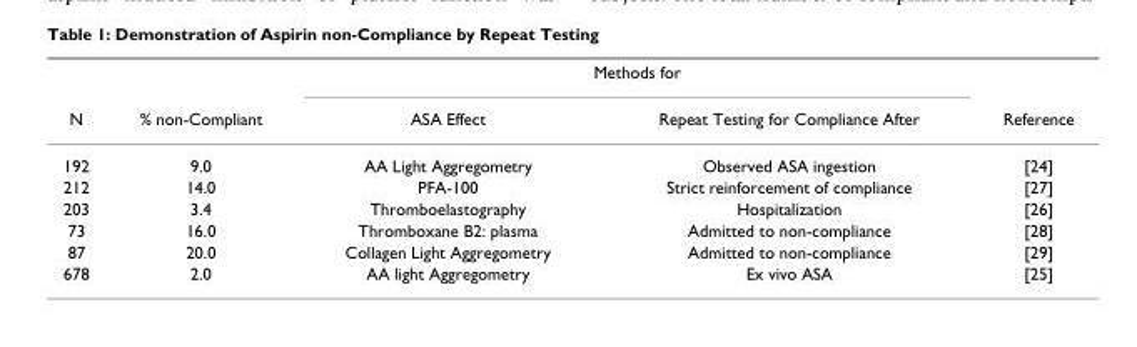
<table><thead><tr><td rowspan="2">N</td><td rowspan="2">% non-Compliant</td><td colspan="2">Methods for</td><td rowspan="2">Reference</td></tr><tr><td>ASA Effect</td><td>Repeat Testing for Compliance After</td></tr></thead><tbody><tr><td>192</td><td>9.0</td><td>AA Light Aggregometry</td><td>Observed ASA ingestion</td><td>[24]</td></tr><tr><td>212</td><td>14.0</td><td>PFA-100</td><td>Strict reinforcement of compliance</td><td>[27]</td></tr><tr><td>203</td><td>3.4</td><td>Thromboelastography</td><td>Hospitalization</td><td>[26]</td></tr><tr><td>73</td><td>16.0</td><td>Thromboxane B2: plasma</td><td>Admitted to non-compliance</td><td>[28]</td></tr><tr><td>87</td><td>20.0</td><td>Collagen Light Aggregometry</td><td>Admitted to non-compliance</td><td>[29]</td></tr><tr><td>678</td><td>2.0</td><td>AA light Aggregometry</td><td>Ex vivo ASA</td><td>[25]</td></tr></tbody></table>